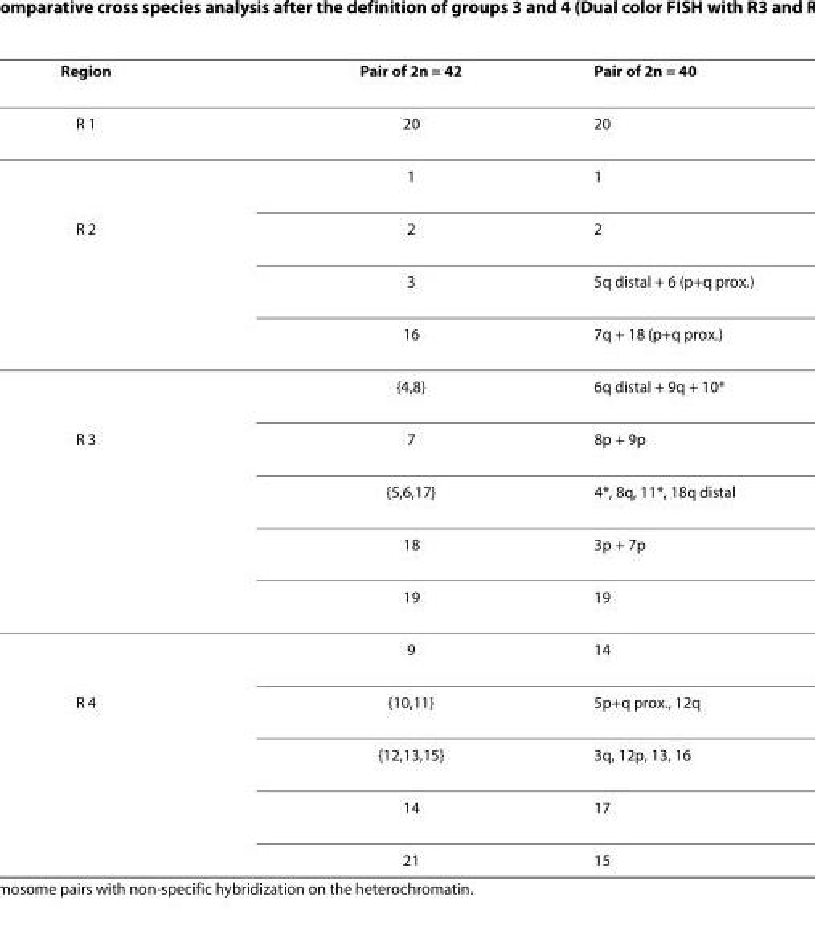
<table><thead><tr><td>Region</td><td>Pair of 2n = 42</td><td>Pair of 2n = 40</td></tr></thead><tbody><tr><td rowspan="2">R 1</td><td>20</td><td>20</td></tr><tr><td>1</td><td>1</td></tr><tr><td rowspan="4">R 2</td><td>2</td><td>2</td></tr><tr><td>3</td><td>5q distal + 6 (p+q prox.)</td></tr><tr><td>16</td><td>7q + 18 (p+q prox.)</td></tr><tr><td>{4,8}</td><td>6q distal + 9q + 10*</td></tr><tr><td rowspan="5">R 3</td><td>7</td><td>8p + 9p</td></tr><tr><td>{5,6,17}</td><td>4*, 8q, 11*, 18q distal</td></tr><tr><td>18</td><td>3p + 7p</td></tr><tr><td>19</td><td>19</td></tr><tr><td>9</td><td>14</td></tr><tr><td rowspan="4">R 4</td><td>{10,11}</td><td>5p+q prox., 12q</td></tr><tr><td>{12,13,15}</td><td>3q, 12p, 13, 16</td></tr><tr><td>14</td><td>17</td></tr><tr><td>21</td><td>15</td></tr></tbody></table>